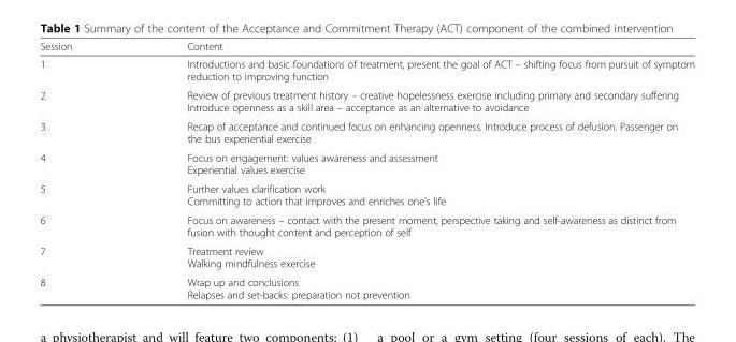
<table><thead><tr><td>Session</td><td>Content</td></tr></thead><tbody><tr><td>1</td><td>Introductions and basic foundations of treatment, present the goal of ACT – shifting focus from pursuit of symptom reduction to improving function</td></tr><tr><td>2</td><td>Review of previous treatment history – creative hopelessness exercise including primary and secondary suffering Introduce openness as a skill area – acceptance as an alternative to avoidance</td></tr><tr><td>3</td><td>Recap of acceptance and continued focus on enhancing openness. Introduce process of defusion. Passenger on the bus experiential exercise</td></tr><tr><td>4</td><td>Focus on engagement: values awareness and assessment Experiential values exercise</td></tr><tr><td>5</td><td>Further values clarification work Committing to action that improves and enriches one’s life</td></tr><tr><td>6</td><td>Focus on awareness – contact with the present moment, perspective taking and self-awareness as distinct from fusion with thought content and perception of self</td></tr><tr><td>7</td><td>Treatment review Walking mindfulness exercise</td></tr><tr><td>8</td><td>Wrap up and conclusions Relapses and set-backs: preparation not prevention</td></tr></tbody></table>